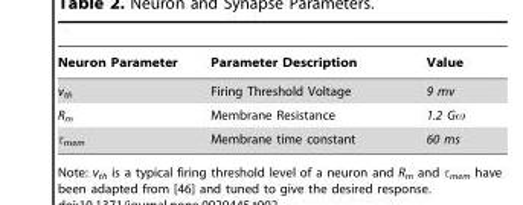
<table><thead><tr><td>Neuron Parameter</td><td>Parameter Description</td><td>Value</td></tr></thead><tbody><tr><td>v<sub>th</sub></td><td>Firing Threshold Voltage</td><td>9 mv</td></tr><tr><td>R<sub>m</sub></td><td>Membrane Resistance</td><td>1.2 Gω</td></tr><tr><td>τ<sub>mem</sub></td><td>Membrane time constant</td><td>60 ms</td></tr></tbody></table>